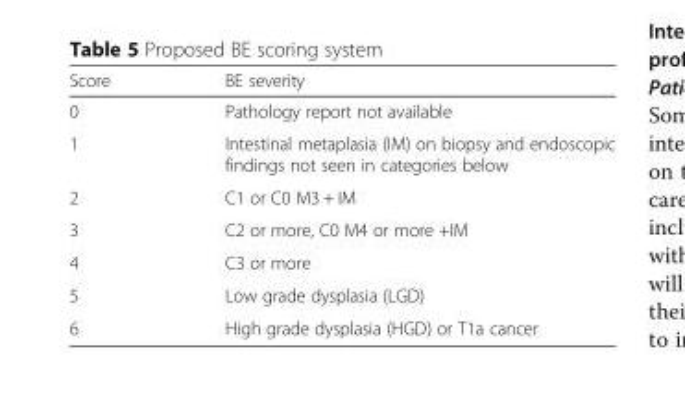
<table><thead><tr><td>Score</td><td>BE severity</td></tr></thead><tbody><tr><td>0</td><td>Pathology report not available</td></tr><tr><td>1</td><td>Intestinal metaplasia (IM) on biopsy and endoscopic findings not seen in categories below</td></tr><tr><td>2</td><td>C1 or C0 M3 + IM</td></tr><tr><td>3</td><td>C2 or more, C0 M4 or more +IM</td></tr><tr><td>4</td><td>C3 or more</td></tr><tr><td>5</td><td>Low grade dysplasia (LGD)</td></tr><tr><td>6</td><td>High grade dysplasia (HGD) or T1a cancer</td></tr></tbody></table>